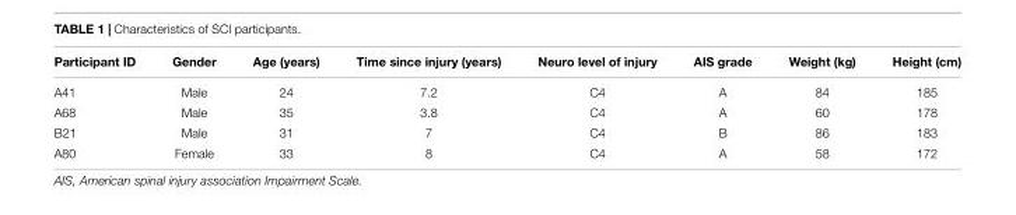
<table><thead><tr><td>Participant ID</td><td>Gender</td><td>Age (years)</td><td>Time since injury (years)</td><td>Neuro level of injury</td><td>AIS grade</td><td>Weight (kg)</td><td>Height (cm)</td></tr></thead><tbody><tr><td>A41</td><td>Male</td><td>24</td><td>7.2</td><td>C4</td><td>A</td><td>84</td><td>185</td></tr><tr><td>A68</td><td>Male</td><td>35</td><td>3.8</td><td>C4</td><td>A</td><td>60</td><td>178</td></tr><tr><td>B21</td><td>Male</td><td>31</td><td>7</td><td>C4</td><td>B</td><td>86</td><td>183</td></tr><tr><td>A80</td><td>Female</td><td>33</td><td>8</td><td>C4</td><td>A</td><td>58</td><td>172</td></tr></tbody></table>